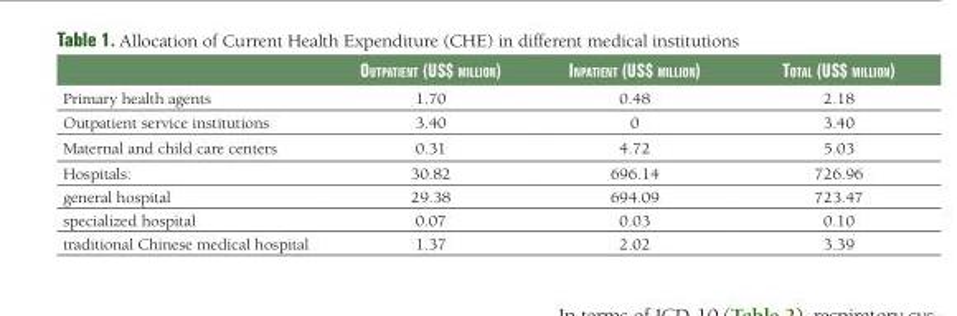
<table><thead><tr><td></td><td>Outpatient (uS$ milliOn)</td><td>inpatient (uS$ milliOn)</td><td>tOtal (uS$ milliOn)</td></tr></thead><tbody><tr><td>Primary health agents</td><td>1.70</td><td>0.48</td><td>2.18</td></tr><tr><td>Outpatient service institutions</td><td>3.40</td><td>0</td><td>3.40</td></tr><tr><td>Maternal and child care centers</td><td>0.31</td><td>4.72</td><td>5.03</td></tr><tr><td>Hospitals:</td><td>30.82</td><td>696.14</td><td>726.96</td></tr><tr><td>general hospital</td><td>29.38</td><td>694.09</td><td>723.47</td></tr><tr><td>specialized hospital</td><td>0.07</td><td>0.03</td><td>0.10</td></tr><tr><td>traditional Chinese medical hospital</td><td>1.37</td><td>2.02</td><td>3.39</td></tr></tbody></table>